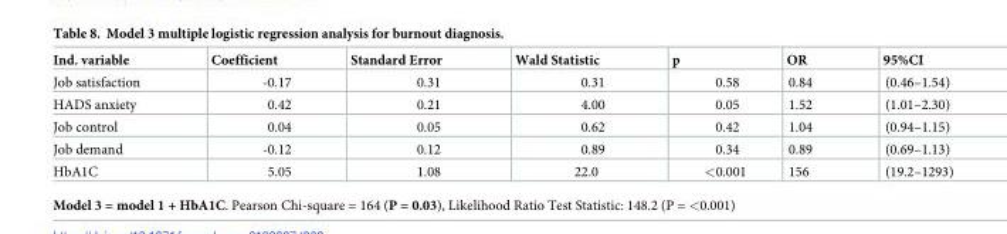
<table><thead><tr><td>Ind. variable</td><td>Coefficient</td><td>Standard Error</td><td>Wald Statistic</td><td>p</td><td>OR</td><td>95%CI</td></tr></thead><tbody><tr><td>Job satisfaction</td><td>-0.17</td><td>0.31</td><td>0.31</td><td>0.58</td><td>0.84</td><td>(0.46–1.54)</td></tr><tr><td>HADS anxiety</td><td>0.42</td><td>0.21</td><td>4.00</td><td>0.05</td><td>1.52</td><td>(1.01–2.30)</td></tr><tr><td>Job control</td><td>0.04</td><td>0.05</td><td>0.62</td><td>0.42</td><td>1.04</td><td>(0.94–1.15)</td></tr><tr><td>Job demand</td><td>-0.12</td><td>0.12</td><td>0.89</td><td>0.34</td><td>0.89</td><td>(0.69–1.13)</td></tr><tr><td>HbA1C</td><td>5.05</td><td>1.08</td><td>22.0</td><td>&lt;0.001</td><td>156</td><td>(19.2–1293)</td></tr></tbody></table>